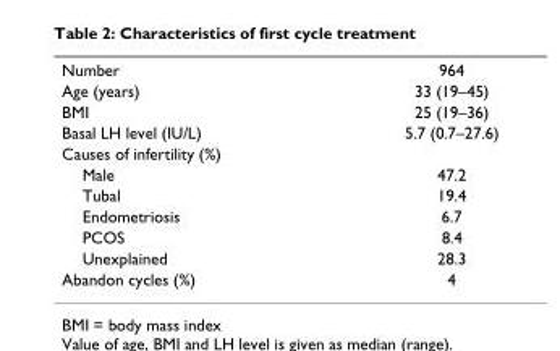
<table><tbody><tr><td>Number</td><td>964</td></tr><tr><td>Age (years)</td><td>33 (19–45)</td></tr><tr><td>BMI</td><td>25 (19–36)</td></tr><tr><td>Basal LH level (IU/L)</td><td>5.7 (0.7–27.6)</td></tr><tr><td colspan="2">Causes of infertility (%)</td></tr><tr><td>Male</td><td>47.2</td></tr><tr><td>Tubal</td><td>19.4</td></tr><tr><td>Endometriosis</td><td>6.7</td></tr><tr><td>PCOS</td><td>8.4</td></tr><tr><td>Unexplained</td><td>28.3</td></tr><tr><td>Abandon cycles (%)</td><td>4</td></tr></tbody></table>